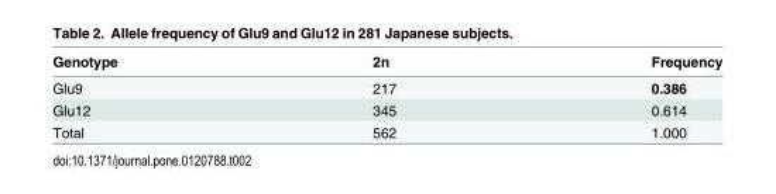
<table><thead><tr><td>Genotype</td><td>2n</td><td>Frequency</td></tr></thead><tbody><tr><td>Glu9</td><td>217</td><td>0.386</td></tr><tr><td>Glu12</td><td>345</td><td>0.614</td></tr><tr><td>Total</td><td>562</td><td>1.000</td></tr></tbody></table>